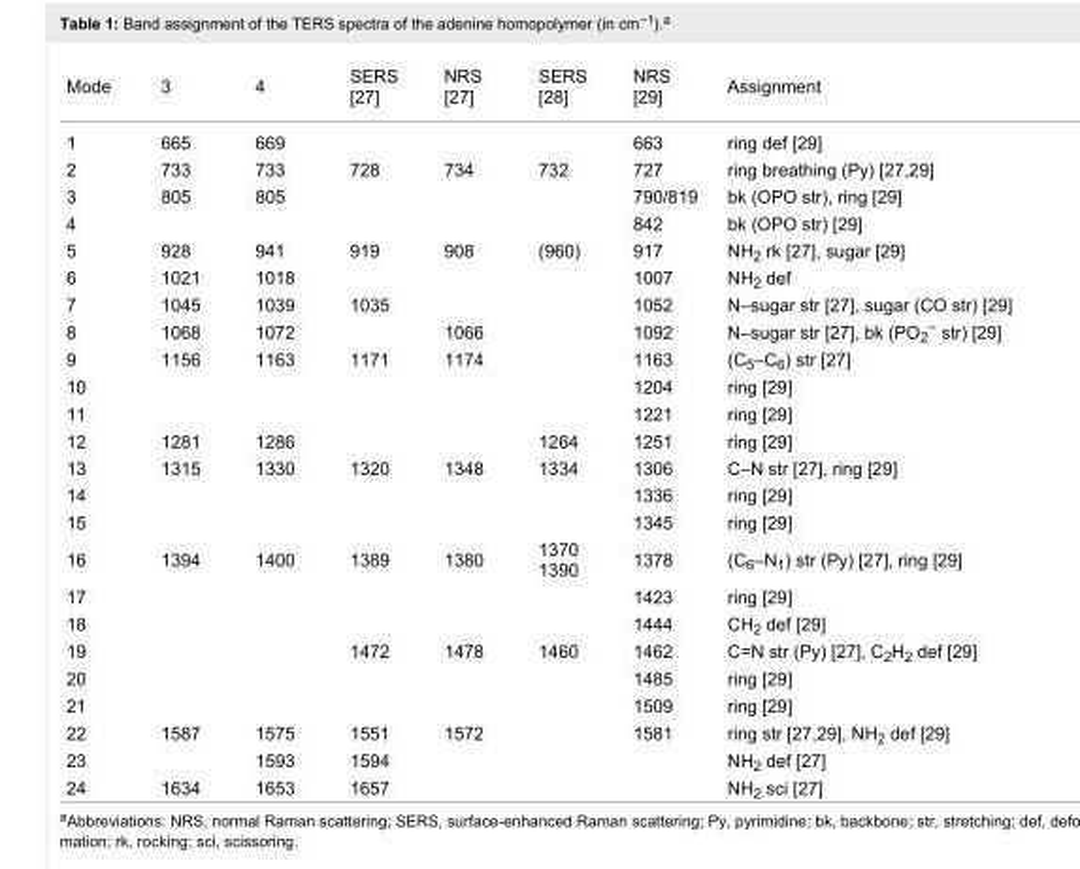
<table><tbody><tr><td>Mode</td><td>3</td><td>4</td><td>SERS [27]</td><td>NRS [27]</td><td>SERS [28]</td><td>NRS [29]</td><td>Assignment</td></tr><tr><td>1</td><td>665</td><td>669</td><td></td><td></td><td></td><td>663</td><td>ring def [29]</td></tr><tr><td>2</td><td>733</td><td>733</td><td>728</td><td>734</td><td>732</td><td>727</td><td>ring breathing (Py) [27,29]</td></tr><tr><td>3</td><td>805</td><td>805</td><td></td><td></td><td></td><td>790/819</td><td>bk (OPO str), ring [29]</td></tr><tr><td>4</td><td></td><td></td><td></td><td></td><td></td><td>842</td><td>bk (OPO str) [29]</td></tr><tr><td>5</td><td>928</td><td>941</td><td>919</td><td>908</td><td>(960)</td><td>917</td><td>NH<sub>2</sub> rk [27], sugar [29]</td></tr><tr><td>6</td><td>1021</td><td>1018</td><td></td><td></td><td></td><td>1007</td><td>NH<sub>2</sub> def</td></tr><tr><td>7</td><td>1045</td><td>1039</td><td>1035</td><td></td><td></td><td>1052</td><td>N–sugar str [27], sugar (CO str) [29]</td></tr><tr><td>8</td><td>1068</td><td>1072</td><td></td><td>1066</td><td></td><td>1092</td><td>N–sugar str [27], bk (PO<sub>2</sub><sup>−</sup> str) [29]</td></tr><tr><td>9</td><td>1156</td><td>1163</td><td>1171</td><td>1174</td><td></td><td>1163</td><td>(C<sub>5</sub>–C<sub>6</sub>) str [27]</td></tr><tr><td>10</td><td></td><td></td><td></td><td></td><td></td><td>1204</td><td>ring [29]</td></tr><tr><td>11</td><td></td><td></td><td></td><td></td><td></td><td>1221</td><td>ring [29]</td></tr><tr><td>12</td><td>1281</td><td>1286</td><td></td><td></td><td>1264</td><td>1251</td><td>ring [29]</td></tr><tr><td>13</td><td>1315</td><td>1330</td><td>1320</td><td>1348</td><td>1334</td><td>1306</td><td>C–N str [27], ring [29]</td></tr><tr><td>14</td><td></td><td></td><td></td><td></td><td></td><td>1336</td><td>ring [29]</td></tr><tr><td>15</td><td></td><td></td><td></td><td></td><td></td><td>1345</td><td>ring [29]</td></tr><tr><td>16</td><td>1394</td><td>1400</td><td>1389</td><td>1380</td><td>1370 1390</td><td>1378</td><td>(C<sub>6</sub>–N<sub>1</sub>) str (Py) [27], ring [29]</td></tr><tr><td>17</td><td></td><td></td><td></td><td></td><td></td><td>1423</td><td>ring [29]</td></tr><tr><td>18</td><td></td><td></td><td></td><td></td><td></td><td>1444</td><td>CH<sub>2</sub> def [29]</td></tr><tr><td>19</td><td></td><td></td><td>1472</td><td>1478</td><td>1460</td><td>1462</td><td>C=N str (Py) [27], C<sub>2</sub>H<sub>2</sub> def [29]</td></tr><tr><td>20</td><td></td><td></td><td></td><td></td><td></td><td>1485</td><td>ring [29]</td></tr><tr><td>21</td><td></td><td></td><td></td><td></td><td></td><td>1509</td><td>ring [29]</td></tr><tr><td>22</td><td>1587</td><td>1575</td><td>1551</td><td>1572</td><td></td><td>1581</td><td>ring str [27,29], NH<sub>2</sub> def [29]</td></tr><tr><td>23</td><td></td><td>1593</td><td>1594</td><td></td><td></td><td></td><td>NH<sub>2</sub> def [27]</td></tr><tr><td>24</td><td>1634</td><td>1653</td><td>1657</td><td></td><td></td><td></td><td>NH<sub>2</sub> sci [27]</td></tr></tbody></table>